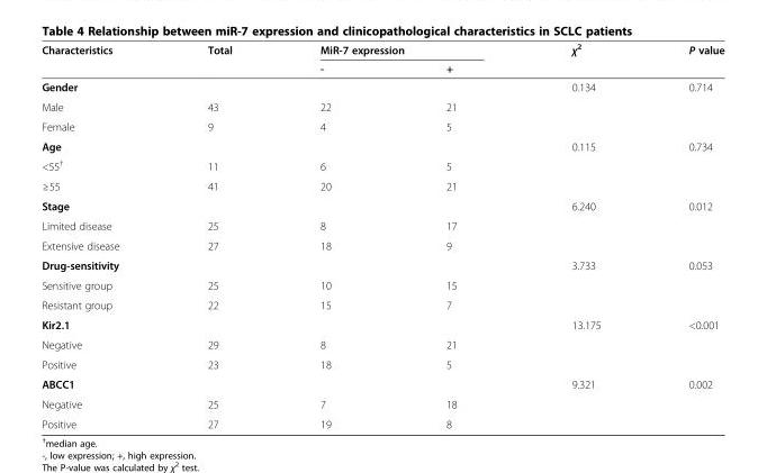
<table><thead><tr><td rowspan="2">Characteristics</td><td rowspan="2">Total</td><td colspan="2">MiR-7 expression</td><td rowspan="2">χ<sup>2</sup></td><td rowspan="2">P value</td></tr><tr><td>-</td><td>+</td></tr></thead><tbody><tr><td>Gender</td><td></td><td></td><td></td><td>0.134</td><td>0.714</td></tr><tr><td>Male</td><td>43</td><td>22</td><td>21</td><td></td><td></td></tr><tr><td>Female</td><td>9</td><td>4</td><td>5</td><td></td><td></td></tr><tr><td>Age</td><td></td><td></td><td></td><td>0.115</td><td>0.734</td></tr><tr><td>&lt;55<sup>†</sup></td><td>11</td><td>6</td><td>5</td><td></td><td></td></tr><tr><td>≥55</td><td>41</td><td>20</td><td>21</td><td></td><td></td></tr><tr><td>Stage</td><td></td><td></td><td></td><td>6.240</td><td>0.012</td></tr><tr><td>Limited disease</td><td>25</td><td>8</td><td>17</td><td></td><td></td></tr><tr><td>Extensive disease</td><td>27</td><td>18</td><td>9</td><td></td><td></td></tr><tr><td>Drug-sensitivity</td><td></td><td></td><td></td><td>3.733</td><td>0.053</td></tr><tr><td>Sensitive group</td><td>25</td><td>10</td><td>15</td><td></td><td></td></tr><tr><td>Resistant group</td><td>22</td><td>15</td><td>7</td><td></td><td></td></tr><tr><td>Kir2.1</td><td></td><td></td><td></td><td>13.175</td><td>&lt;0.001</td></tr><tr><td>Negative</td><td>29</td><td>8</td><td>21</td><td></td><td></td></tr><tr><td>Positive</td><td>23</td><td>18</td><td>5</td><td></td><td></td></tr><tr><td>ABCC1</td><td></td><td></td><td></td><td>9.321</td><td>0.002</td></tr><tr><td>Negative</td><td>25</td><td>7</td><td>18</td><td></td><td></td></tr><tr><td>Positive</td><td>27</td><td>19</td><td>8</td><td></td><td></td></tr></tbody></table>